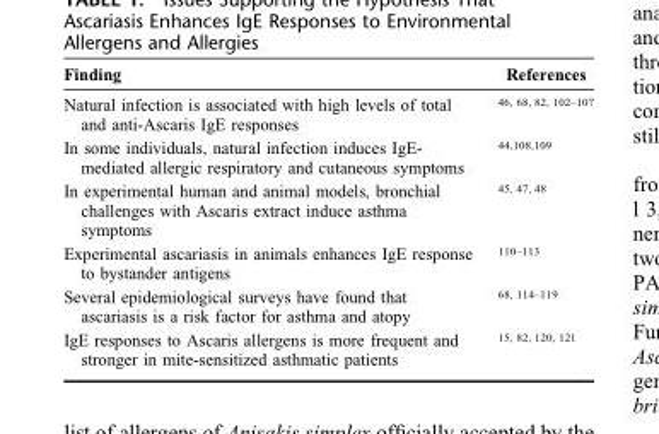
<table><thead><tr><td>Finding</td><td>References</td></tr></thead><tbody><tr><td>Natural infection is associated with high levels of total and anti-Ascaris IgE responses</td><td>46, 68, 82, 102–107</td></tr><tr><td>In some individuals, natural infection induces IgE- mediated allergic respiratory and cutaneous symptoms</td><td>44,108,109</td></tr><tr><td>In experimental human and animal models, bronchial challenges with Ascaris extract induce asthma symptoms</td><td>45, 47, 48</td></tr><tr><td>Experimental ascariasis in animals enhances IgE response to bystander antigens</td><td>110–113</td></tr><tr><td>Several epidemiological surveys have found that ascariasis is a risk factor for asthma and atopy</td><td>68, 114–119</td></tr><tr><td>IgE responses to Ascaris allergens is more frequent and stronger in mite-sensitized asthmatic patients</td><td>15, 82, 120, 121</td></tr></tbody></table>